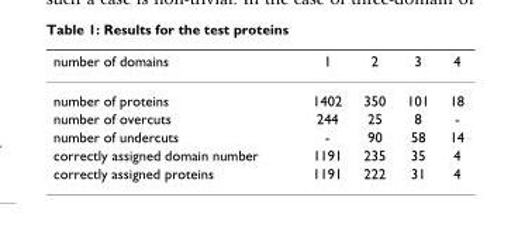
<table><thead><tr><td>number of domains</td><td>1</td><td>2</td><td>3</td><td>4</td></tr></thead><tbody><tr><td>number of proteins</td><td>1402</td><td>350</td><td>101</td><td>18</td></tr><tr><td>number of overcuts</td><td>244</td><td>25</td><td>8</td><td>-</td></tr><tr><td>number of undercuts</td><td>-</td><td>90</td><td>58</td><td>14</td></tr><tr><td>correctly assigned domain number</td><td>1191</td><td>235</td><td>35</td><td>4</td></tr><tr><td>correctly assigned proteins</td><td>1191</td><td>222</td><td>31</td><td>4</td></tr></tbody></table>